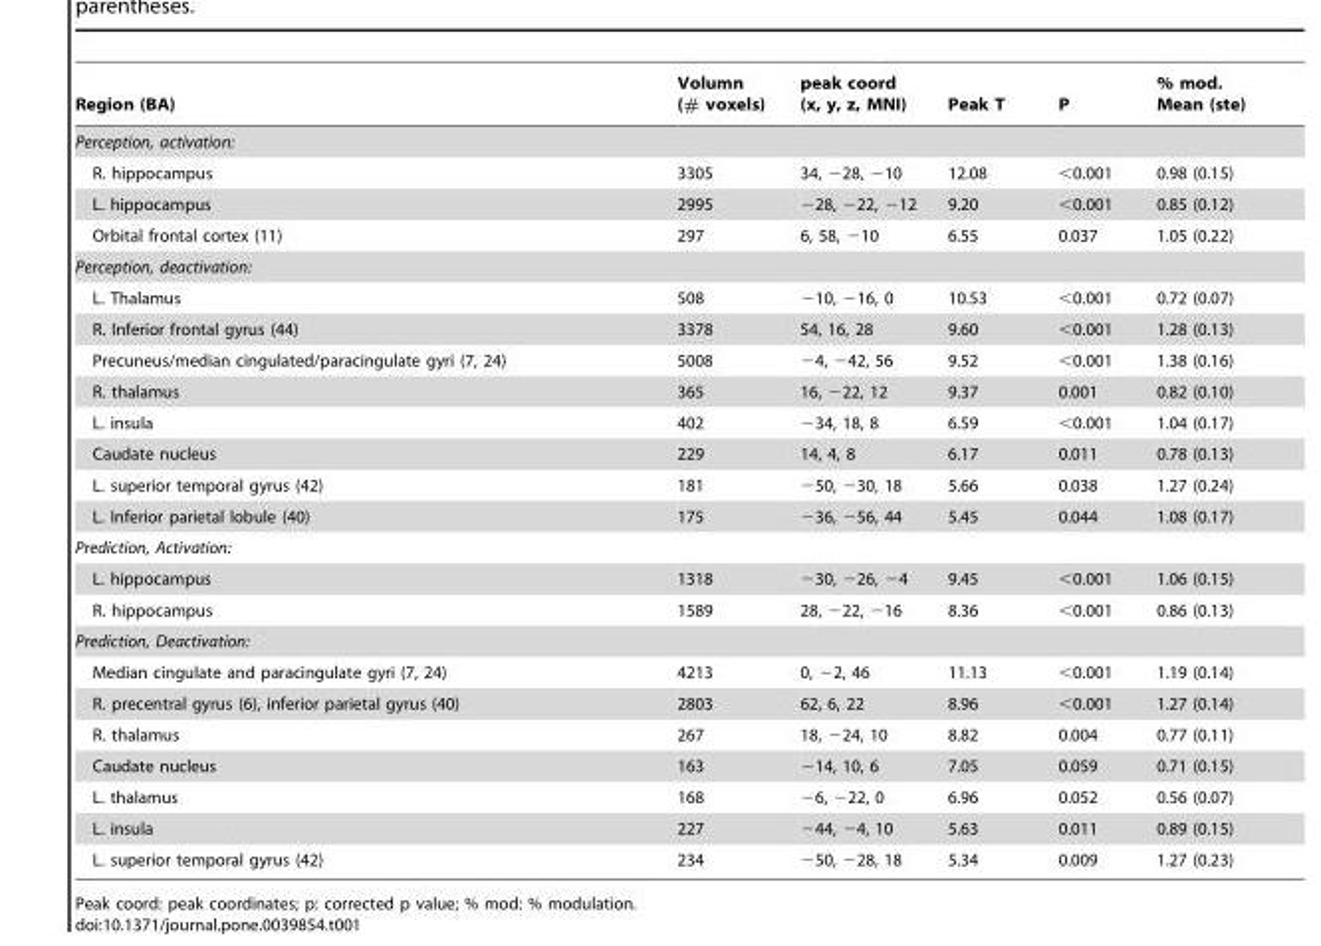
<table><thead><tr><td>Region (BA)</td><td>Volumn (# voxels)</td><td>peak coord (x, y, z, MNI)</td><td>Peak T</td><td>P</td><td>% mod. Mean (ste)</td></tr></thead><tbody><tr><td colspan="6">Perception, activation:</td></tr><tr><td>R. hippocampus</td><td>3305</td><td>34, −28, −10</td><td>12.08</td><td>&lt;0.001</td><td>0.98 (0.15)</td></tr><tr><td>L. hippocampus</td><td>2995</td><td>−28, −22, −12</td><td>9.20</td><td>&lt;0.001</td><td>0.85 (0.12)</td></tr><tr><td>Orbital frontal cortex (11)</td><td>297</td><td>6, 58, −10</td><td>6.55</td><td>0.037</td><td>1.05 (0.22)</td></tr><tr><td colspan="6">Perception, deactivation:</td></tr><tr><td>L. Thalamus</td><td>508</td><td>−10, −16, 0</td><td>10.53</td><td>&lt;0.001</td><td>0.72 (0.07)</td></tr><tr><td>R. Inferior frontal gyrus (44)</td><td>3378</td><td>54, 16, 28</td><td>9.60</td><td>&lt;0.001</td><td>1.28 (0.13)</td></tr><tr><td>Precuneus/median cingulated/paracingulate gyri (7, 24)</td><td>5008</td><td>−4, −42, 56</td><td>9.52</td><td>&lt;0.001</td><td>1.38 (0.16)</td></tr><tr><td>R. thalamus</td><td>365</td><td>16, −22, 12</td><td>9.37</td><td>0.001</td><td>0.82 (0.10)</td></tr><tr><td>L. insula</td><td>402</td><td>−34, 18, 8</td><td>6.59</td><td>&lt;0.001</td><td>1.04 (0.17)</td></tr><tr><td>Caudate nucleus</td><td>229</td><td>14, 4, 8</td><td>6.17</td><td>0.011</td><td>0.78 (0.13)</td></tr><tr><td>L. superior temporal gyrus (42)</td><td>181</td><td>−50, −30, 18</td><td>5.66</td><td>0.038</td><td>1.27 (0.24)</td></tr><tr><td>L. Inferior parietal lobule (40)</td><td>175</td><td>−36, −56, 44</td><td>5.45</td><td>0.044</td><td>1.08 (0.17)</td></tr><tr><td colspan="6">Prediction, Activation:</td></tr><tr><td>L. hippocampus</td><td>1318</td><td>−30, −26, −4</td><td>9.45</td><td>&lt;0.001</td><td>1.06 (0.15)</td></tr><tr><td>R. hippocampus</td><td>1589</td><td>28, −22, −16</td><td>8.36</td><td>&lt;0.001</td><td>0.86 (0.13)</td></tr><tr><td colspan="6">Prediction, Deactivation:</td></tr><tr><td>Median cingulate and paracingulate gyri (7, 24)</td><td>4213</td><td>0, −2, 46</td><td>11.13</td><td>&lt;0.001</td><td>1.19 (0.14)</td></tr><tr><td>R. precentral gyrus (6), inferior parietal gyrus (40)</td><td>2803</td><td>62, 6, 22</td><td>8.96</td><td>&lt;0.001</td><td>1.27 (0.14)</td></tr><tr><td>R. thalamus</td><td>267</td><td>18, −24, 10</td><td>8.82</td><td>0.004</td><td>0.77 (0.11)</td></tr><tr><td>Caudate nucleus</td><td>163</td><td>−14, 10, 6</td><td>7.05</td><td>0.059</td><td>0.71 (0.15)</td></tr><tr><td>L. thalamus</td><td>168</td><td>−6, −22, 0</td><td>6.96</td><td>0.052</td><td>0.56 (0.07)</td></tr><tr><td>L. insula</td><td>227</td><td>−44, −4, 10</td><td>5.63</td><td>0.011</td><td>0.89 (0.15)</td></tr><tr><td>L. superior temporal gyrus (42)</td><td>234</td><td>−50, −28, 18</td><td>5.34</td><td>0.009</td><td>1.27 (0.23)</td></tr></tbody></table>